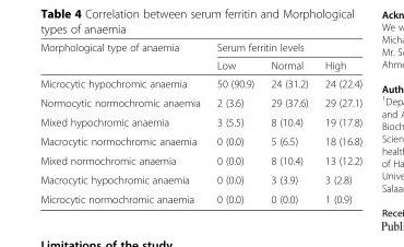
<table><thead><tr><td rowspan="2">Morphological type of anaemia</td><td colspan="3">Serum ferritin levels</td></tr><tr><td>Low</td><td>Normal</td><td>High</td></tr></thead><tbody><tr><td>Microcytic hypochromic anaemia</td><td>50 (90.9)</td><td>24 (31.2)</td><td>24 (22.4)</td></tr><tr><td>Normocytic normochromic anaemia</td><td>2 (3.6)</td><td>29 (37.6)</td><td>29 (27.1)</td></tr><tr><td>Mixed hypochromic anaemia</td><td>3 (5.5)</td><td>8 (10.4)</td><td>19 (17.8)</td></tr><tr><td>Macrocytic normochromic anaemia</td><td>0 (0.0)</td><td>5 (6.5)</td><td>18 (16.8)</td></tr><tr><td>Mixed normochromic anaemia</td><td>0 (0.0)</td><td>8 (10.4)</td><td>13 (12.2)</td></tr><tr><td>Macrocytic hypochromic anaemia</td><td>0 (0.0)</td><td>3 (3.9)</td><td>3 (2.8)</td></tr><tr><td>Microcytic normochromic anaemia</td><td>0 (0.0)</td><td>0 (0.0)</td><td>1 (0.9)</td></tr></tbody></table>